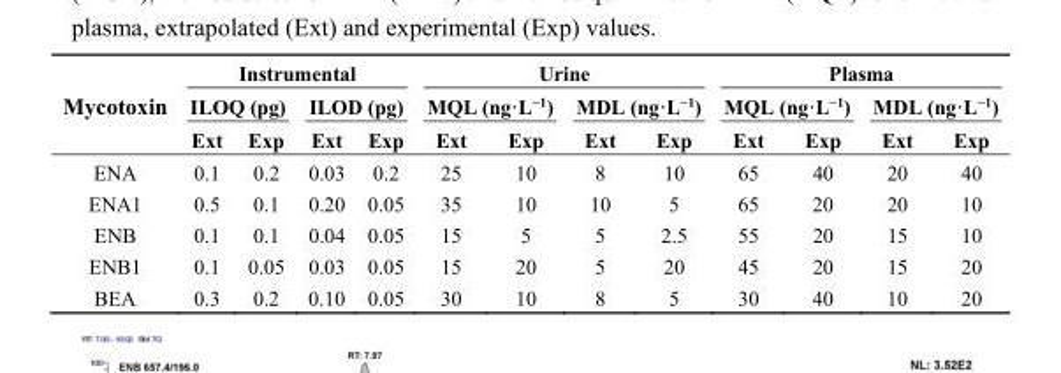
<table><thead><tr><td rowspan="3">Mycotoxin</td><td colspan="4">Instrumental</td><td colspan="4">Urine</td><td colspan="4">Plasma</td></tr><tr><td colspan="2">ILOQ (pg)</td><td colspan="2">ILOD (pg)</td><td colspan="2">MQL (ng·L<sup>−1</sup>)</td><td colspan="2">MDL (ng·L<sup>−1</sup>)</td><td colspan="2">MQL (ng·L<sup>−1</sup>)</td><td colspan="2">MDL (ng·L<sup>−1</sup>)</td></tr><tr><td>Ext</td><td>Exp</td><td>Ext</td><td>Exp</td><td>Ext</td><td>Exp</td><td>Ext</td><td>Exp</td><td>Ext</td><td>Exp</td><td>Ext</td><td>Exp</td></tr></thead><tbody><tr><td>ENA</td><td>0.1</td><td>0.2</td><td>0.03</td><td>0.2</td><td>25</td><td>10</td><td>8</td><td>10</td><td>65</td><td>40</td><td>20</td><td>40</td></tr><tr><td>ENA1</td><td>0.5</td><td>0.1</td><td>0.20</td><td>0.05</td><td>35</td><td>10</td><td>10</td><td>5</td><td>65</td><td>20</td><td>20</td><td>10</td></tr><tr><td>ENB</td><td>0.1</td><td>0.1</td><td>0.04</td><td>0.05</td><td>15</td><td>5</td><td>5</td><td>2.5</td><td>55</td><td>20</td><td>15</td><td>10</td></tr><tr><td>ENB1</td><td>0.1</td><td>0.05</td><td>0.03</td><td>0.05</td><td>15</td><td>20</td><td>5</td><td>20</td><td>45</td><td>20</td><td>15</td><td>20</td></tr><tr><td>BEA</td><td>0.3</td><td>0.2</td><td>0.10</td><td>0.05</td><td>30</td><td>10</td><td>8</td><td>5</td><td>30</td><td>40</td><td>10</td><td>20</td></tr></tbody></table>